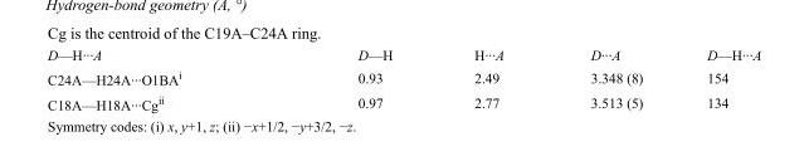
<table><tbody><tr><td>D—H···A</td><td>D—H</td><td>H···A</td><td>D···A</td><td>D—H···A</td></tr><tr><td>C24A—H24A···O1BA<sup>i</sup></td><td>0.93</td><td>2.49</td><td>3.348 (8)</td><td>154</td></tr><tr><td>C18A—H18A···Cg<sup>ii</sup></td><td>0.97</td><td>2.77</td><td>3.513 (5)</td><td>134</td></tr></tbody></table>